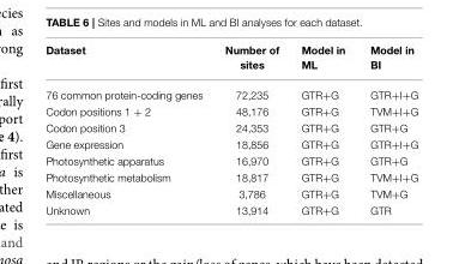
<table><thead><tr><td>Dataset</td><td>Number of sites</td><td>Model in ML</td><td>Model in BI</td></tr></thead><tbody><tr><td>76 common protein-coding genes</td><td>72,235</td><td>GTR+G</td><td>GTR+I+G</td></tr><tr><td>Codon positions 1 + 2</td><td>48,176</td><td>GTR+G</td><td>TVM+I+G</td></tr><tr><td>Codon position 3</td><td>24,353</td><td>GTR+G</td><td>GTR+G</td></tr><tr><td>Gene expression</td><td>18,856</td><td>GTR+G</td><td>GTR+I+G</td></tr><tr><td>Photosynthetic apparatus</td><td>16,970</td><td>GTR+G</td><td>GTR+G</td></tr><tr><td>Photosynthetic metabolism</td><td>18,817</td><td>GTR+G</td><td>TVM+I+G</td></tr><tr><td>Miscellaneous</td><td>3,786</td><td>GTR+G</td><td>TVM+G</td></tr><tr><td>Unknown</td><td>13,914</td><td>GTR+G</td><td>GTR</td></tr></tbody></table>